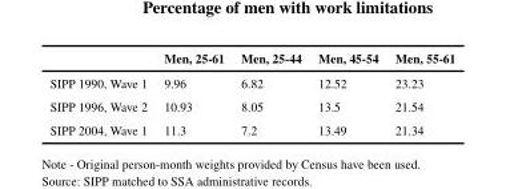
<table><thead><tr><td></td><td>Men, 25-61</td><td>Men, 25-44</td><td>Men, 45-54</td><td>Men, 55-61</td></tr></thead><tbody><tr><td>SIPP 1990, Wave 1</td><td>9.96</td><td>6.82</td><td>12.52</td><td>23.23</td></tr><tr><td>SIPP 1996, Wave 2</td><td>10.93</td><td>8.05</td><td>13.5</td><td>21.54</td></tr><tr><td>SIPP 2004, Wave 1</td><td>11.3</td><td>7.2</td><td>13.49</td><td>21.34</td></tr></tbody></table>